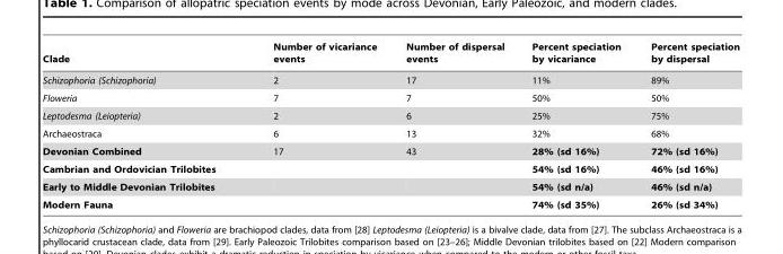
<table><thead><tr><td>Clade</td><td>Number of vicariance events</td><td>Number of dispersal events</td><td>Percent speciation by vicariance</td><td>Percent speciation by dispersal</td></tr></thead><tbody><tr><td>Schizophoria (Schizophoria)</td><td>2</td><td>17</td><td>11%</td><td>89%</td></tr><tr><td>Floweria</td><td>7</td><td>7</td><td>50%</td><td>50%</td></tr><tr><td>Leptodesma (Leiopteria)</td><td>2</td><td>6</td><td>25%</td><td>75%</td></tr><tr><td>Archaeostraca</td><td>6</td><td>13</td><td>32%</td><td>68%</td></tr><tr><td>Devonian Combined</td><td>17</td><td>43</td><td>28% (sd 16%)</td><td>72% (sd 16%)</td></tr><tr><td>Cambrian and Ordovician Trilobites</td><td></td><td></td><td>54% (sd 16%)</td><td>46% (sd 16%)</td></tr><tr><td>Early to Middle Devonian Trilobites</td><td></td><td></td><td>54% (sd n/a)</td><td>46% (sd n/a)</td></tr><tr><td>Modern Fauna</td><td></td><td></td><td>74% (sd 35%)</td><td>26% (sd 34%)</td></tr></tbody></table>